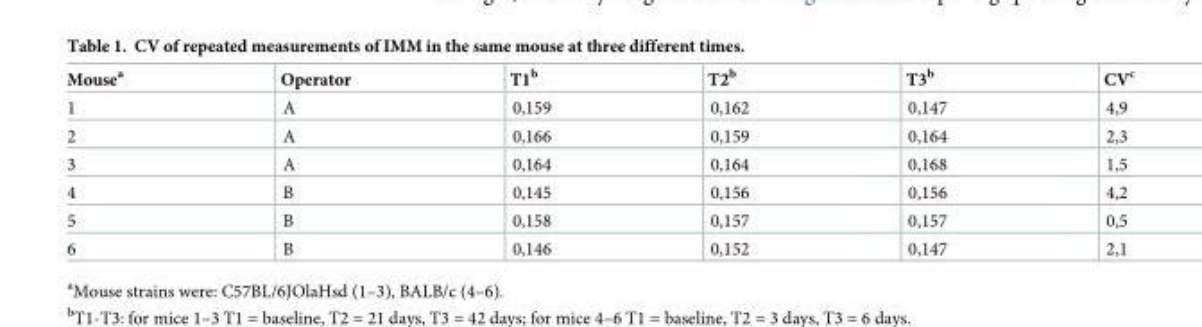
<table><thead><tr><td>Mouse<sup>a</sup></td><td>Operator</td><td>T1<sup>b</sup></td><td>T2<sup>b</sup></td><td>T3<sup>b</sup></td><td>CV<sup>c</sup></td></tr></thead><tbody><tr><td>1</td><td>A</td><td>0,159</td><td>0,162</td><td>0,147</td><td>4,9</td></tr><tr><td>2</td><td>A</td><td>0,166</td><td>0,159</td><td>0,164</td><td>2,3</td></tr><tr><td>3</td><td>A</td><td>0,164</td><td>0,164</td><td>0,168</td><td>1,5</td></tr><tr><td>4</td><td>B</td><td>0,145</td><td>0,156</td><td>0,156</td><td>4,2</td></tr><tr><td>5</td><td>B</td><td>0,158</td><td>0,157</td><td>0,157</td><td>0,5</td></tr><tr><td>6</td><td>B</td><td>0,146</td><td>0,152</td><td>0,147</td><td>2,1</td></tr></tbody></table>